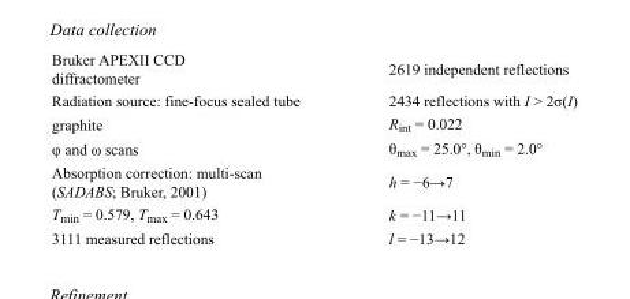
<table><tbody><tr><td>Bruker APEXII CCD diffractometer</td><td>2619 independent reflections</td></tr><tr><td>Radiation source: fine-focus sealed tube</td><td>2434 reflections with I &gt; 2σ(I)</td></tr><tr><td>graphite</td><td>R<sub>int</sub> = 0.022</td></tr><tr><td>φ and ω scans</td><td>θ<sub>max</sub> = 25.0°, θ<sub>min</sub> = 2.0°</td></tr><tr><td>Absorption correction: multi-scan (SADABS; Bruker, 2001)</td><td>h = −6→7</td></tr><tr><td>T<sub>min</sub> = 0.579, T<sub>max</sub> = 0.643</td><td>k = −11→11</td></tr><tr><td>3111 measured reflections</td><td>l = −13→12</td></tr></tbody></table>